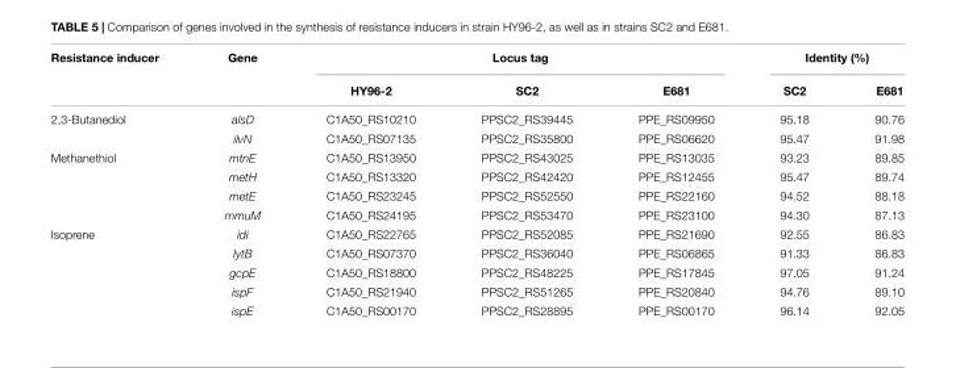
<table><thead><tr><td rowspan="2">Resistance inducer</td><td rowspan="2">Gene</td><td colspan="3">Locus tag</td><td colspan="2">Identity (%)</td></tr><tr><td>HY96-2</td><td>SC2</td><td>E681</td><td>SC2</td><td>E681</td></tr></thead><tbody><tr><td rowspan="2">2,3-Butanediol</td><td>alsD</td><td>C1A50_RS10210</td><td>PPSC2_RS39445</td><td>PPE_RS09950</td><td>95.18</td><td>90.76</td></tr><tr><td>ilvN</td><td>C1A50_RS07135</td><td>PPSC2_RS35800</td><td>PPE_RS06620</td><td>95.47</td><td>91.98</td></tr><tr><td rowspan="4">Methanethiol</td><td>mtnE</td><td>C1A50_RS13950</td><td>PPSC2_RS43025</td><td>PPE_RS13035</td><td>93.23</td><td>89.85</td></tr><tr><td>metH</td><td>C1A50_RS13320</td><td>PPSC2_RS42420</td><td>PPE_RS12455</td><td>95.47</td><td>89.74</td></tr><tr><td>metE</td><td>C1A50_RS23245</td><td>PPSC2_RS52550</td><td>PPE_RS22160</td><td>94.52</td><td>88.18</td></tr><tr><td>mmuM</td><td>C1A50_RS24195</td><td>PPSC2_RS53470</td><td>PPE_RS23100</td><td>94.30</td><td>87.13</td></tr><tr><td rowspan="5">Isoprene</td><td>idi</td><td>C1A50_RS22765</td><td>PPSC2_RS52085</td><td>PPE_RS21690</td><td>92.55</td><td>86.83</td></tr><tr><td>lytB</td><td>C1A50_RS07370</td><td>PPSC2_RS36040</td><td>PPE_RS06865</td><td>91.33</td><td>86.83</td></tr><tr><td>gcpE</td><td>C1A50_RS18800</td><td>PPSC2_RS48225</td><td>PPE_RS17845</td><td>97.05</td><td>91.24</td></tr><tr><td>ispF</td><td>C1A50_RS21940</td><td>PPSC2_RS51265</td><td>PPE_RS20840</td><td>94.76</td><td>89.10</td></tr><tr><td>ispE</td><td>C1A50_RS00170</td><td>PPSC2_RS28895</td><td>PPE_RS00170</td><td>96.14</td><td>92.05</td></tr></tbody></table>